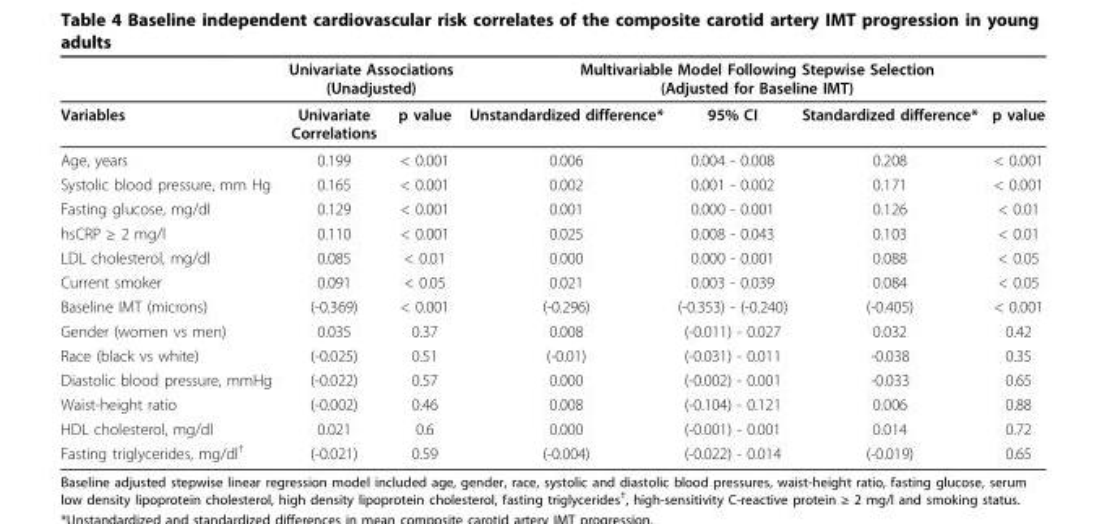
<table><thead><tr><td rowspan="2">Variables</td><td colspan="2">Univariate Associations (Unadjusted)</td><td colspan="4">Multivariable Model Following Stepwise Selection (Adjusted for Baseline IMT)</td></tr><tr><td>Univariate Correlations</td><td>p value</td><td>Unstandardized difference*</td><td>95% CI</td><td>Standardized difference*</td><td>p value</td></tr></thead><tbody><tr><td>Age, years</td><td>0.199</td><td>&lt; 0.001</td><td>0.006</td><td>0.004 - 0.008</td><td>0.208</td><td>&lt; 0.001</td></tr><tr><td>Systolic blood pressure, mm Hg</td><td>0.165</td><td>&lt; 0.001</td><td>0.002</td><td>0.001 - 0.002</td><td>0.171</td><td>&lt; 0.001</td></tr><tr><td>Fasting glucose, mg/dl</td><td>0.129</td><td>&lt; 0.001</td><td>0.001</td><td>0.000 - 0.001</td><td>0.126</td><td>&lt; 0.01</td></tr><tr><td>hsCRP ≥ 2 mg/l</td><td>0.110</td><td>&lt; 0.001</td><td>0.025</td><td>0.008 - 0.043</td><td>0.103</td><td>&lt; 0.01</td></tr><tr><td>LDL cholesterol, mg/dl</td><td>0.085</td><td>&lt; 0.01</td><td>0.000</td><td>0.000 - 0.001</td><td>0.088</td><td>&lt; 0.05</td></tr><tr><td>Current smoker</td><td>0.091</td><td>&lt; 0.05</td><td>0.021</td><td>0.003 - 0.039</td><td>0.084</td><td>&lt; 0.05</td></tr><tr><td>Baseline IMT (microns)</td><td>(-0.369)</td><td>&lt; 0.001</td><td>(-0.296)</td><td>(-0.353) - (-0.240)</td><td>(-0.405)</td><td>&lt; 0.001</td></tr><tr><td>Gender (women vs men)</td><td>0.035</td><td>0.37</td><td>0.008</td><td>(-0.011) - 0.027</td><td>0.032</td><td>0.42</td></tr><tr><td>Race (black vs white)</td><td>(-0.025)</td><td>0.51</td><td>(-0.01)</td><td>(-0.031) - 0.011</td><td>-0.038</td><td>0.35</td></tr><tr><td>Diastolic blood pressure, mmHg</td><td>(-0.022)</td><td>0.57</td><td>0.000</td><td>(-0.002) - 0.001</td><td>-0.033</td><td>0.65</td></tr><tr><td>Waist-height ratio</td><td>(-0.002)</td><td>0.46</td><td>0.008</td><td>(-0.104) - 0.121</td><td>0.006</td><td>0.88</td></tr><tr><td>HDL cholesterol, mg/dl</td><td>0.021</td><td>0.6</td><td>0.000</td><td>(-0.001) - 0.001</td><td>0.014</td><td>0.72</td></tr><tr><td>Fasting triglycerides, mg/dl<sup>†</sup></td><td>(-0.021)</td><td>0.59</td><td>(-0.004)</td><td>(-0.022) - 0.014</td><td>(-0.019)</td><td>0.65</td></tr></tbody></table>